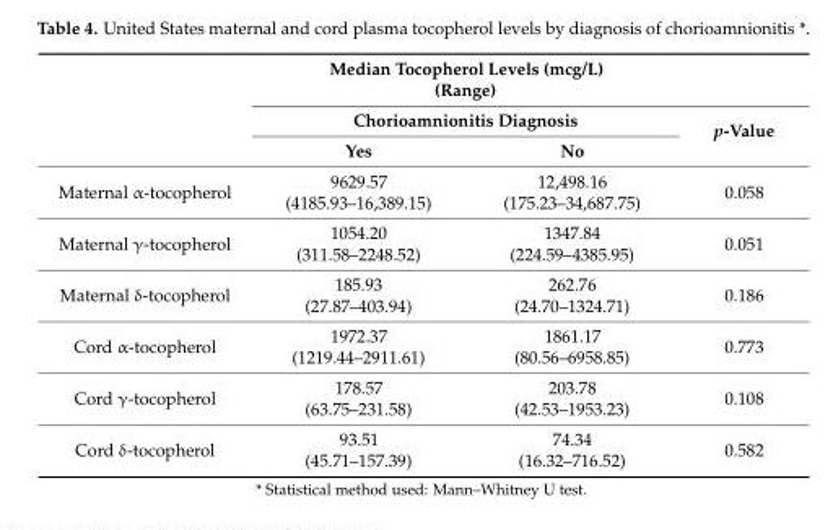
<table><thead><tr><td rowspan="3"></td><td rowspan="2" colspan="2">Median Tocopherol Levels (mcg/L) (Range) Chorioamnionitis Diagnosis</td><td rowspan="3">p-Value</td></tr><tr></tr><tr><td>Yes</td><td>No</td></tr></thead><tbody><tr><td>Maternal α-tocopherol</td><td>9629.57 (4185.93–16,389.15)</td><td>12,498.16 (175.23–34,687.75)</td><td>0.058</td></tr><tr><td>Maternal γ-tocopherol</td><td>1054.20 (311.58–2248.52)</td><td>1347.84 (224.59–4385.95)</td><td>0.051</td></tr><tr><td>Maternal δ-tocopherol</td><td>185.93 (27.87–403.94)</td><td>262.76 (24.70–1324.71)</td><td>0.186</td></tr><tr><td>Cord α-tocopherol</td><td>1972.37 (1219.44–2911.61)</td><td>1861.17 (80.56–6958.85)</td><td>0.773</td></tr><tr><td>Cord γ-tocopherol</td><td>178.57 (63.75–231.58)</td><td>203.78 (42.53–1953.23)</td><td>0.108</td></tr><tr><td>Cord δ-tocopherol</td><td>93.51 (45.71–157.39)</td><td>74.34 (16.32–716.52)</td><td>0.582</td></tr></tbody></table>